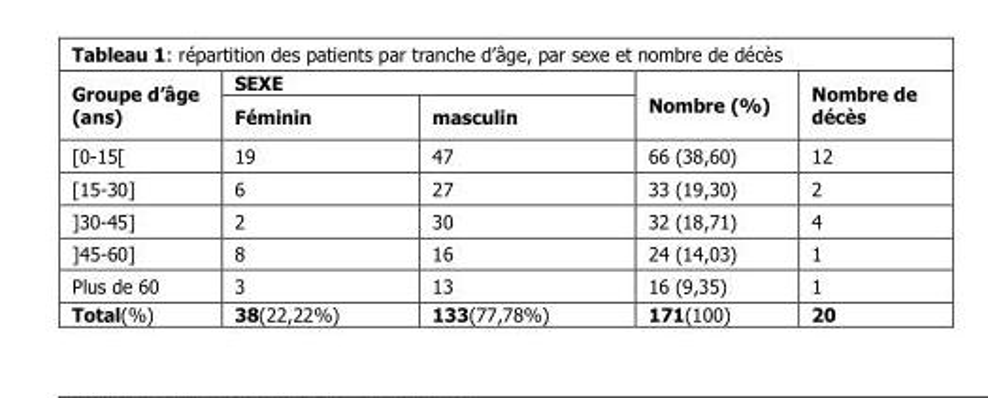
<table><thead><tr><td rowspan="2">Groupe d’âge (ans)</td><td colspan="2">SEXE</td><td rowspan="2">Nombre (%)</td><td rowspan="2">Nombre de décès</td></tr><tr><td>Féminin</td><td>masculin</td></tr></thead><tbody><tr><td>[0-15[</td><td>19</td><td>47</td><td>66 (38,60)</td><td>12</td></tr><tr><td>[15-30]</td><td>6</td><td>27</td><td>33 (19,30)</td><td>2</td></tr><tr><td>]30-45]</td><td>2</td><td>30</td><td>32 (18,71)</td><td>4</td></tr><tr><td>]45-60]</td><td>8</td><td>16</td><td>24 (14,03)</td><td>1</td></tr><tr><td>Plus de 60</td><td>3</td><td>13</td><td>16 (9,35)</td><td>1</td></tr><tr><td>Total(%)</td><td>38(22,22%)</td><td>133(77,78%)</td><td>171(100)</td><td>20</td></tr></tbody></table>